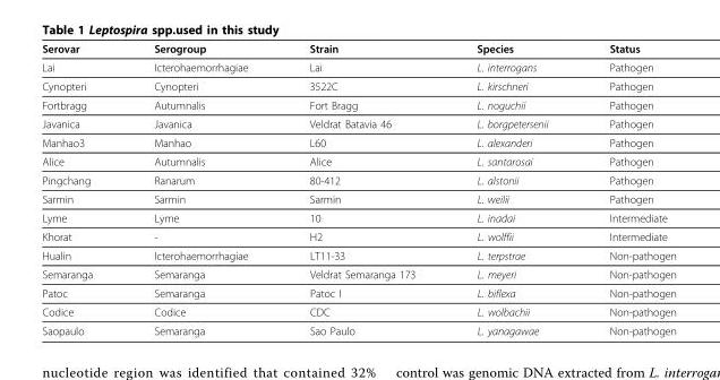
<table><thead><tr><td>Serovar</td><td>Serogroup</td><td>Strain</td><td>Species</td><td>Status</td></tr></thead><tbody><tr><td>Lai</td><td>Icterohaemorrhagiae</td><td>Lai</td><td>L. interrogans</td><td>Pathogen</td></tr><tr><td>Cynopteri</td><td>Cynopteri</td><td>3522C</td><td>L. kirschneri</td><td>Pathogen</td></tr><tr><td>Fortbragg</td><td>Autumnalis</td><td>Fort Bragg</td><td>L. noguchii</td><td>Pathogen</td></tr><tr><td>Javanica</td><td>Javanica</td><td>Veldrat Batavia 46</td><td>L. borgpetersenii</td><td>Pathogen</td></tr><tr><td>Manhao3</td><td>Manhao</td><td>L60</td><td>L. alexanderi</td><td>Pathogen</td></tr><tr><td>Alice</td><td>Autumnalis</td><td>Alice</td><td>L. santarosai</td><td>Pathogen</td></tr><tr><td>Pingchang</td><td>Ranarum</td><td>80-412</td><td>L. alstonii</td><td>Pathogen</td></tr><tr><td>Sarmin</td><td>Sarmin</td><td>Sarmin</td><td>L. weilii</td><td>Pathogen</td></tr><tr><td>Lyme</td><td>Lyme</td><td>10</td><td>L. inadai</td><td>Intermediate</td></tr><tr><td>Khorat</td><td>-</td><td>H2</td><td>L. wolffii</td><td>Intermediate</td></tr><tr><td>Hualin</td><td>Icterohaemorrhagiae</td><td>LT11-33</td><td>L. terpstrae</td><td>Non-pathogen</td></tr><tr><td>Semaranga</td><td>Semaranga</td><td>Veldrat Semaranga 173</td><td>L. meyeri</td><td>Non-pathogen</td></tr><tr><td>Patoc</td><td>Semaranga</td><td>Patoc I</td><td>L. biflexa</td><td>Non-pathogen</td></tr><tr><td>Codice</td><td>Codice</td><td>CDC</td><td>L. wolbachii</td><td>Non-pathogen</td></tr><tr><td>Saopaulo</td><td>Semaranga</td><td>Sao Paulo</td><td>L. yanagawae</td><td>Non-pathogen</td></tr></tbody></table>